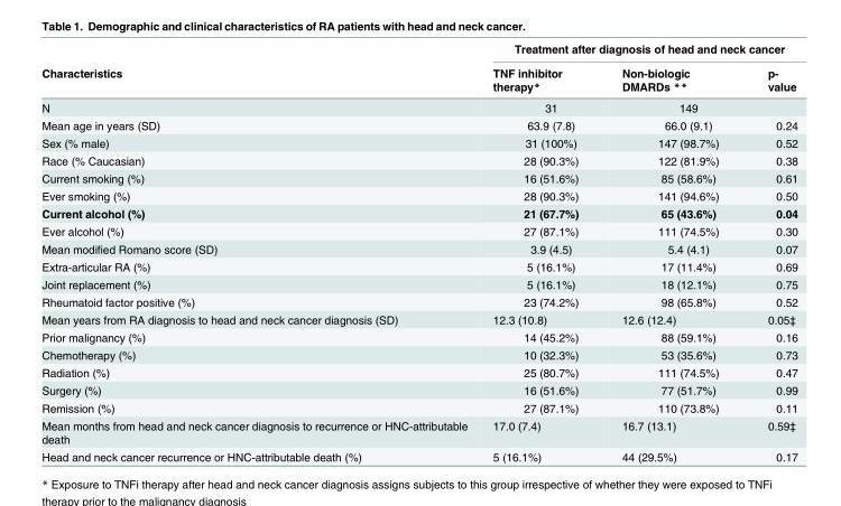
<table><thead><tr><td rowspan="2">Characteristics</td><td colspan="3">Treatment after diagnosis of head and neck cancer</td></tr><tr><td>TNF inhibitor therapy*</td><td>Non-biologic DMARDs **</td><td>p- value</td></tr></thead><tbody><tr><td>N</td><td>31</td><td>149</td><td></td></tr><tr><td>Mean age in years (SD)</td><td>63.9 (7.8)</td><td>66.0 (9.1)</td><td>0.24</td></tr><tr><td>Sex (% male)</td><td>31 (100%)</td><td>147 (98.7%)</td><td>0.52</td></tr><tr><td>Race (% Caucasian)</td><td>28 (90.3%)</td><td>122 (81.9%)</td><td>0.38</td></tr><tr><td>Current smoking (%)</td><td>16 (51.6%)</td><td>85 (58.6%)</td><td>0.61</td></tr><tr><td>Ever smoking (%)</td><td>28 (90.3%)</td><td>141 (94.6%)</td><td>0.50</td></tr><tr><td>Current alcohol (%)</td><td>21 (67.7%)</td><td>65 (43.6%)</td><td>0.04</td></tr><tr><td>Ever alcohol (%)</td><td>27 (87.1%)</td><td>111 (74.5%)</td><td>0.30</td></tr><tr><td>Mean modified Romano score (SD)</td><td>3.9 (4.5)</td><td>5.4 (4.1)</td><td>0.07</td></tr><tr><td>Extra-articular RA (%)</td><td>5 (16.1%)</td><td>17 (11.4%)</td><td>0.69</td></tr><tr><td>Joint replacement (%)</td><td>5 (16.1%)</td><td>18 (12.1%)</td><td>0.75</td></tr><tr><td>Rheumatoid factor positive (%)</td><td>23 (74.2%)</td><td>98 (65.8%)</td><td>0.52</td></tr><tr><td>Mean years from RA diagnosis to head and neck cancer diagnosis (SD)</td><td>12.3 (10.8)</td><td>12.6 (12.4)</td><td>0.05‡</td></tr><tr><td>Prior malignancy (%)</td><td>14 (45.2%)</td><td>88 (59.1%)</td><td>0.16</td></tr><tr><td>Chemotherapy (%)</td><td>10 (32.3%)</td><td>53 (35.6%)</td><td>0.73</td></tr><tr><td>Radiation (%)</td><td>25 (80.7%)</td><td>111 (74.5%)</td><td>0.47</td></tr><tr><td>Surgery (%)</td><td>16 (51.6%)</td><td>77 (51.7%)</td><td>0.99</td></tr><tr><td>Remission (%)</td><td>27 (87.1%)</td><td>110 (73.8%)</td><td>0.11</td></tr><tr><td>Mean months from head and neck cancer diagnosis to recurrence or HNC-attributable death</td><td>17.0 (7.4)</td><td>16.7 (13.1)</td><td>0.59‡</td></tr><tr><td>Head and neck cancer recurrence or HNC-attributable death (%)</td><td>5 (16.1%)</td><td>44 (29.5%)</td><td>0.17</td></tr></tbody></table>